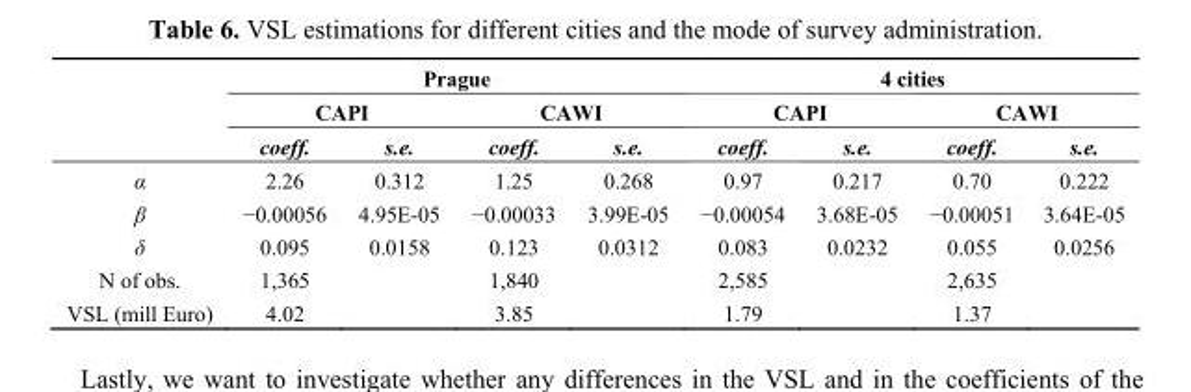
<table><thead><tr><td rowspan="3"></td><td colspan="4">Prague</td><td colspan="4">4 cities</td></tr><tr><td colspan="2">CAPI</td><td colspan="2">CAWI</td><td colspan="2">CAPI</td><td colspan="2">CAWI</td></tr><tr><td>coeff.</td><td>s.e.</td><td>coeff.</td><td>s.e.</td><td>coeff.</td><td>s.e.</td><td>coeff.</td><td>s.e.</td></tr></thead><tbody><tr><td>α</td><td>2.26</td><td>0.312</td><td>1.25</td><td>0.268</td><td>0.97</td><td>0.217</td><td>0.70</td><td>0.222</td></tr><tr><td>β</td><td>−0.00056</td><td>4.95E-05</td><td>−0.00033</td><td>3.99E-05</td><td>−0.00054</td><td>3.68E-05</td><td>−0.00051</td><td>3.64E-05</td></tr><tr><td>δ</td><td>0.095</td><td>0.0158</td><td>0.123</td><td>0.0312</td><td>0.083</td><td>0.0232</td><td>0.055</td><td>0.0256</td></tr><tr><td>N of obs.</td><td>1,365</td><td></td><td>1,840</td><td></td><td>2,585</td><td></td><td>2,635</td><td></td></tr><tr><td>VSL (mill Euro)</td><td>4.02</td><td></td><td>3.85</td><td></td><td>1.79</td><td></td><td>1.37</td><td></td></tr></tbody></table>